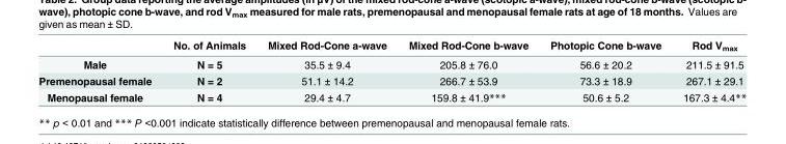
<table><thead><tr><td></td><td>No. of Animals</td><td>Mixed Rod-Cone a-wave</td><td>Mixed Rod-Cone b-wave</td><td>Photopic Cone b-wave</td><td>Rod V<sub>max</sub></td></tr></thead><tbody><tr><td>Male</td><td>N = 5</td><td>35.5 ± 9.4</td><td>205.8 ± 76.0</td><td>56.6 ± 20.2</td><td>211.5 ± 91.5</td></tr><tr><td>Premenopausal female</td><td>N = 2</td><td>51.1 ± 14.2</td><td>266.7 ± 53.9</td><td>73.3 ± 18.9</td><td>267.1 ± 29.1</td></tr><tr><td>Menopausal female</td><td>N = 4</td><td>29.4 ± 4.7</td><td>159.8 ± 41.9***</td><td>50.6 ± 5.2</td><td>167.3 ± 4.4**</td></tr></tbody></table>